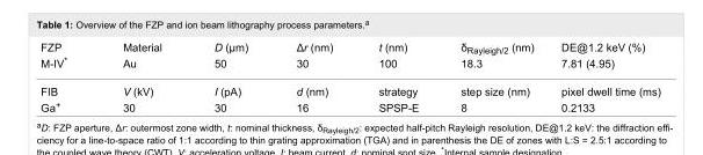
<table><tbody><tr><td>FZP</td><td>Material</td><td>D (µm)</td><td>Δr (nm)</td><td>t (nm)</td><td>δ<sub>Rayleigh/2</sub> (nm)</td><td>DE@1.2 keV (%)</td></tr><tr><td>M-IV*</td><td>Au</td><td>50</td><td>30</td><td>100</td><td>18.3</td><td>7.81 (4.95)</td></tr><tr><td>FIB</td><td>V (kV)</td><td>I (pA)</td><td>d (nm)</td><td>strategy</td><td>step size (nm)</td><td>pixel dwell time (ms)</td></tr><tr><td>Ga<sup>+</sup></td><td>30</td><td>30</td><td>16</td><td>SPSP-E</td><td>8</td><td>0.2133</td></tr></tbody></table>